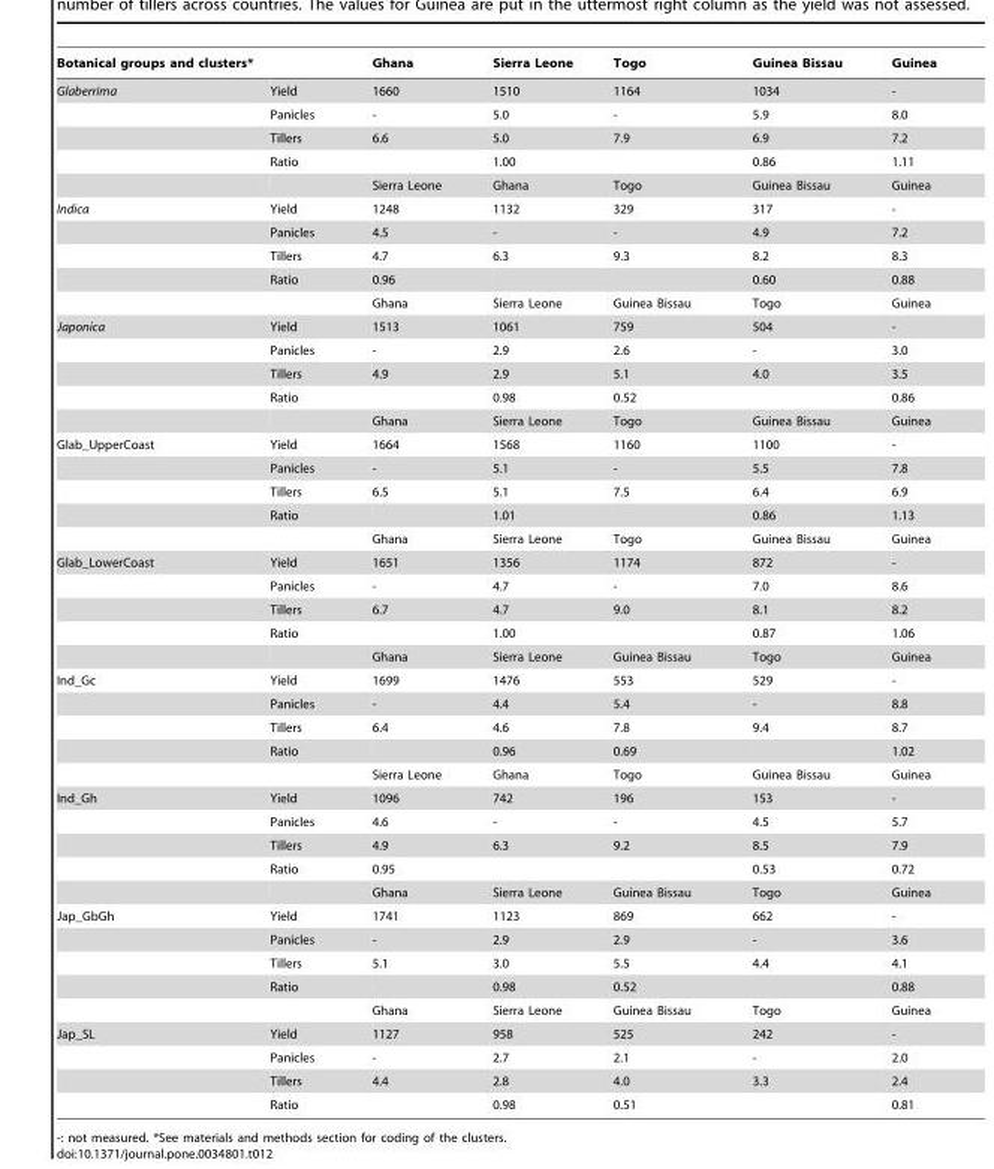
<table><thead><tr><td>Botanical groups and clusters*</td><td></td><td>Ghana</td><td>Sierra Leone</td><td>Togo</td><td>Guinea Bissau</td><td>Guinea</td></tr></thead><tbody><tr><td rowspan="5">Glaberrima</td><td>Yield</td><td>1660</td><td>1510</td><td>1164</td><td>1034</td><td>-</td></tr><tr><td>Panicles</td><td>-</td><td>5.0</td><td>-</td><td>5.9</td><td>8.0</td></tr><tr><td>Tillers</td><td>6.6</td><td>5.0</td><td>7.9</td><td>6.9</td><td>7.2</td></tr><tr><td>Ratio</td><td></td><td>1.00</td><td></td><td>0.86</td><td>1.11</td></tr><tr><td></td><td>Sierra Leone</td><td>Ghana</td><td>Togo</td><td>Guinea Bissau</td><td>Guinea</td></tr><tr><td rowspan="5">Indica</td><td>Yield</td><td>1248</td><td>1132</td><td>329</td><td>317</td><td>-</td></tr><tr><td>Panicles</td><td>4.5</td><td>-</td><td>-</td><td>4.9</td><td>7.2</td></tr><tr><td>Tillers</td><td>4.7</td><td>6.3</td><td>9.3</td><td>8.2</td><td>8.3</td></tr><tr><td>Ratio</td><td>0.96</td><td></td><td></td><td>0.60</td><td>0.88</td></tr><tr><td></td><td>Ghana</td><td>Sierra Leone</td><td>Guinea Bissau</td><td>Togo</td><td>Guinea</td></tr><tr><td rowspan="5">Japonica</td><td>Yield</td><td>1513</td><td>1061</td><td>759</td><td>504</td><td>-</td></tr><tr><td>Panicles</td><td>-</td><td>2.9</td><td>2.6</td><td>-</td><td>3.0</td></tr><tr><td>Tillers</td><td>4.9</td><td>2.9</td><td>5.1</td><td>4.0</td><td>3.5</td></tr><tr><td>Ratio</td><td></td><td>0.98</td><td>0.52</td><td></td><td>0.86</td></tr><tr><td></td><td>Ghana</td><td>Sierra Leone</td><td>Togo</td><td>Guinea Bissau</td><td>Guinea</td></tr><tr><td rowspan="5">Glab_UpperCoast</td><td>Yield</td><td>1664</td><td>1568</td><td>1160</td><td>1100</td><td>-</td></tr><tr><td>Panicles</td><td>-</td><td>5.1</td><td>-</td><td>5.5</td><td>7.8</td></tr><tr><td>Tillers</td><td>6.5</td><td>5.1</td><td>7.5</td><td>6.4</td><td>6.9</td></tr><tr><td>Ratio</td><td></td><td>1.01</td><td></td><td>0.86</td><td>1.13</td></tr><tr><td></td><td>Ghana</td><td>Sierra Leone</td><td>Togo</td><td>Guinea Bissau</td><td>Guinea</td></tr><tr><td rowspan="5">Glab_LowerCoast</td><td>Yield</td><td>1651</td><td>1356</td><td>1174</td><td>872</td><td>-</td></tr><tr><td>Panicles</td><td>-</td><td>4.7</td><td>-</td><td>7.0</td><td>8.6</td></tr><tr><td>Tillers</td><td>6.7</td><td>4.7</td><td>9.0</td><td>8.1</td><td>8.2</td></tr><tr><td>Ratio</td><td></td><td>1.00</td><td></td><td>0.87</td><td>1.06</td></tr><tr><td></td><td>Ghana</td><td>Sierra Leone</td><td>Guinea Bissau</td><td>Togo</td><td>Guinea</td></tr><tr><td rowspan="5">Ind_Gc</td><td>Yield</td><td>1699</td><td>1476</td><td>553</td><td>529</td><td>-</td></tr><tr><td>Panicles</td><td>-</td><td>4.4</td><td>5.4</td><td>-</td><td>8.8</td></tr><tr><td>Tillers</td><td>6.4</td><td>4.6</td><td>7.8</td><td>9.4</td><td>8.7</td></tr><tr><td>Ratio</td><td></td><td>0.96</td><td>0.69</td><td></td><td>1.02</td></tr><tr><td></td><td>Sierra Leone</td><td>Ghana</td><td>Togo</td><td>Guinea Bissau</td><td>Guinea</td></tr><tr><td rowspan="5">Ind_Gh</td><td>Yield</td><td>1096</td><td>742</td><td>196</td><td>153</td><td>-</td></tr><tr><td>Panicles</td><td>4.6</td><td>-</td><td>-</td><td>4.5</td><td>5.7</td></tr><tr><td>Tillers</td><td>4.9</td><td>6.3</td><td>9.2</td><td>8.5</td><td>7.9</td></tr><tr><td>Ratio</td><td>0.95</td><td></td><td></td><td>0.53</td><td>0.72</td></tr><tr><td></td><td>Ghana</td><td>Sierra Leone</td><td>Guinea Bissau</td><td>Togo</td><td>Guinea</td></tr><tr><td rowspan="5">Jap_GbGh</td><td>Yield</td><td>1741</td><td>1123</td><td>869</td><td>662</td><td>-</td></tr><tr><td>Panicles</td><td>-</td><td>2.9</td><td>2.9</td><td>-</td><td>3.6</td></tr><tr><td>Tillers</td><td>5.1</td><td>3.0</td><td>5.5</td><td>4.4</td><td>4.1</td></tr><tr><td>Ratio</td><td></td><td>0.98</td><td>0.52</td><td></td><td>0.88</td></tr><tr><td></td><td>Ghana</td><td>Sierra Leone</td><td>Guinea Bissau</td><td>Togo</td><td>Guinea</td></tr><tr><td rowspan="4">Jap_SL</td><td>Yield</td><td>1127</td><td>958</td><td>525</td><td>242</td><td>-</td></tr><tr><td>Panicles</td><td>-</td><td>2.7</td><td>2.1</td><td>-</td><td>2.0</td></tr><tr><td>Tillers</td><td>4.4</td><td>2.8</td><td>4.0</td><td>3.3</td><td>2.4</td></tr><tr><td>Ratio</td><td></td><td>0.98</td><td>0.51</td><td></td><td>0.81</td></tr></tbody></table>